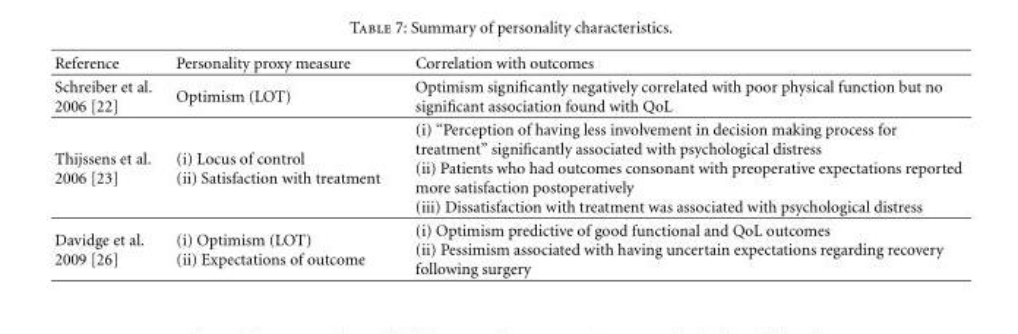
<table><thead><tr><td>Reference</td><td>Personality proxy measure</td><td>Correlation with outcomes</td></tr></thead><tbody><tr><td>Schreiber et al. 2006 [22]</td><td>Optimism (LOT)</td><td>Optimism significantly negatively correlated with poor physical function but no significant association found with QoL</td></tr><tr><td>Thijssens et al. 2006 [23]</td><td>(i) Locus of control (ii) Satisfaction with treatment</td><td>(i) “Perception of having less involvement in decision making process for treatment” significantly associated with psychological distress (ii) Patients who had outcomes consonant with preoperative expectations reported more satisfaction postoperatively (iii) Dissatisfaction with treatment was associated with psychological distress</td></tr><tr><td>Davidge et al. 2009 [26]</td><td>(i) Optimism (LOT) (ii) Expectations of outcome</td><td>(i) Optimism predictive of good functional and QoL outcomes (ii) Pessimism associated with having uncertain expectations regarding recovery following surgery</td></tr></tbody></table>